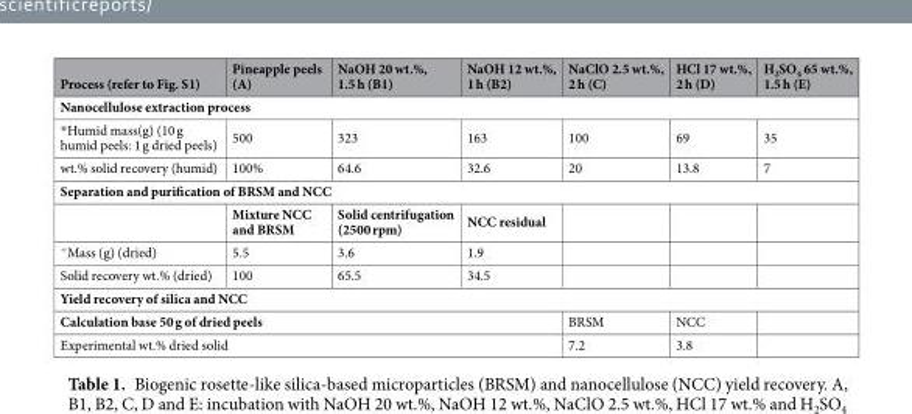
<table><thead><tr><td>Process (refer to Fig. S1)</td><td>Pineapple peels (A)</td><td>NaOH 20 wt.%, 1.5 h (B1)</td><td>NaOH 12 wt.%, 1 h (B2)</td><td>NaClO 2.5 wt.%, 2 h (C)</td><td>HCl 17 wt.%, 2 h (D)</td><td>H<sub>2</sub>SO<sub>4</sub> 65 wt.%, 1.5 h (E)</td></tr></thead><tbody><tr><td colspan="7">Nanocellulose extraction process</td></tr><tr><td>*Humid mass(g) (10 g humid peels: 1 g dried peels)</td><td>500</td><td>323</td><td>163</td><td>100</td><td>69</td><td>35</td></tr><tr><td>wt.% solid recovery (humid)</td><td>100%</td><td>64.6</td><td>32.6</td><td>20</td><td>13.8</td><td>7</td></tr><tr><td colspan="7">Separation and purification of BRSM and NCC</td></tr><tr><td></td><td>Mixture NCC and BRSM</td><td>Solid centrifugation (2500 rpm)</td><td>NCC residual</td><td></td><td></td><td></td></tr><tr><td><sup>+</sup>Mass (g) (dried)</td><td>5.5</td><td>3.6</td><td>1.9</td><td></td><td></td><td></td></tr><tr><td>Solid recovery wt.% (dried)</td><td>100</td><td>65.5</td><td>34.5</td><td></td><td></td><td></td></tr><tr><td colspan="7">Yield recovery of silica and NCC</td></tr><tr><td colspan="4">Calculation base 50 g of dried peels</td><td>BRSM</td><td>NCC</td><td></td></tr><tr><td colspan="4">Experimental wt.% dried solid</td><td>7.2</td><td>3.8</td><td></td></tr></tbody></table>